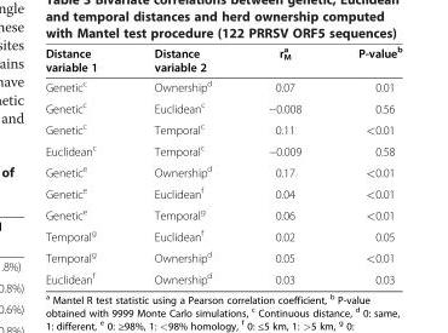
<table><thead><tr><td>Distance variable 1</td><td>Distance variable 2</td><td>r<sub>M</sub> <sup>a</sup></td><td>P-value<sup>b</sup></td></tr></thead><tbody><tr><td>Genetic<sup>c</sup></td><td>Ownership<sup>d</sup></td><td>0.07</td><td>0.01</td></tr><tr><td>Genetic<sup>c</sup></td><td>Euclidean<sup>c</sup></td><td>−0.008</td><td>0.56</td></tr><tr><td>Genetic<sup>c</sup></td><td>Temporal<sup>c</sup></td><td>0.11</td><td>&lt;0.01</td></tr><tr><td>Euclidean<sup>c</sup></td><td>Temporal<sup>c</sup></td><td>−0.009</td><td>0.58</td></tr><tr><td>Genetic<sup>e</sup></td><td>Ownership<sup>d</sup></td><td>0.17</td><td>&lt;0.01</td></tr><tr><td>Genetic<sup>e</sup></td><td>Euclidean<sup>f</sup></td><td>0.04</td><td>&lt;0.01</td></tr><tr><td>Genetic<sup>e</sup></td><td>Temporal<sup>g</sup></td><td>0.06</td><td>&lt;0.01</td></tr><tr><td>Temporal<sup>g</sup></td><td>Euclidean<sup>f</sup></td><td>0.02</td><td>0.05</td></tr><tr><td>Temporal<sup>g</sup></td><td>Ownership<sup>d</sup></td><td>0.05</td><td>&lt;0.01</td></tr><tr><td>Euclidean<sup>f</sup></td><td>Ownership<sup>d</sup></td><td>0.03</td><td>0.03</td></tr></tbody></table>